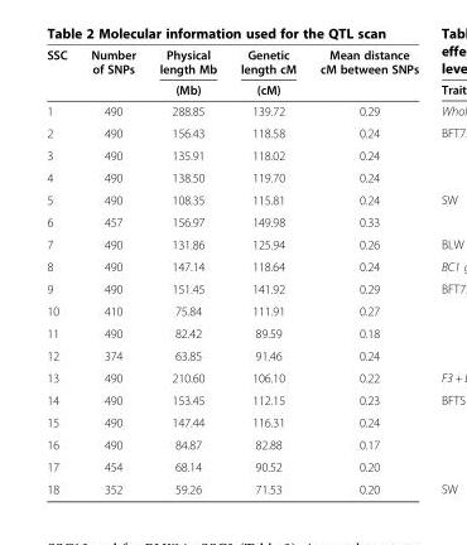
<table><thead><tr><td rowspan="2">SSC</td><td rowspan="2">Number of SNPs</td><td rowspan="2">Physical length Mb (Mb)</td><td rowspan="2">Genetic length cM (cM)</td><td rowspan="2">Mean distance cM between SNPs</td></tr><tr></tr></thead><tbody><tr><td>1</td><td>490</td><td>288.85</td><td>139.72</td><td>0.29</td></tr><tr><td>2</td><td>490</td><td>156.43</td><td>118.58</td><td>0.24</td></tr><tr><td>3</td><td>490</td><td>135.91</td><td>118.02</td><td>0.24</td></tr><tr><td>4</td><td>490</td><td>138.50</td><td>119.70</td><td>0.24</td></tr><tr><td>5</td><td>490</td><td>108.35</td><td>115.81</td><td>0.24</td></tr><tr><td>6</td><td>457</td><td>156.97</td><td>149.98</td><td>0.33</td></tr><tr><td>7</td><td>490</td><td>131.86</td><td>125.94</td><td>0.26</td></tr><tr><td>8</td><td>490</td><td>147.14</td><td>118.64</td><td>0.24</td></tr><tr><td>9</td><td>490</td><td>151.45</td><td>141.92</td><td>0.29</td></tr><tr><td>10</td><td>410</td><td>75.84</td><td>111.91</td><td>0.27</td></tr><tr><td>11</td><td>490</td><td>82.42</td><td>89.59</td><td>0.18</td></tr><tr><td>12</td><td>374</td><td>63.85</td><td>91.46</td><td>0.24</td></tr><tr><td>13</td><td>490</td><td>210.60</td><td>106.10</td><td>0.22</td></tr><tr><td>14</td><td>490</td><td>153.45</td><td>112.15</td><td>0.23</td></tr><tr><td>15</td><td>490</td><td>147.44</td><td>116.31</td><td>0.24</td></tr><tr><td>16</td><td>490</td><td>84.87</td><td>82.88</td><td>0.17</td></tr><tr><td>17</td><td>454</td><td>68.14</td><td>90.52</td><td>0.20</td></tr><tr><td>18</td><td>352</td><td>59.26</td><td>71.53</td><td>0.20</td></tr></tbody></table>